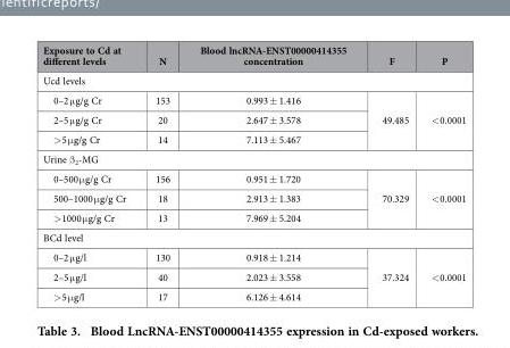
<table><thead><tr><td>Exposure to Cd at different levels</td><td>N</td><td>Blood lncRNA-ENST00000414355 concentration</td><td>F</td><td>P</td></tr></thead><tbody><tr><td colspan="5">Ucd levels</td></tr><tr><td>0–2 μ g/g Cr</td><td>153</td><td>0.993 ± 1.416</td><td rowspan="3">49.485</td><td rowspan="3">&lt; 0.0001</td></tr><tr><td>2–5 μ g/g Cr</td><td>20</td><td>2.647 ± 3.578</td></tr><tr><td>&gt; 5 μ g/g Cr</td><td>14</td><td>7.113 ± 5.467</td></tr><tr><td colspan="5">Urine β <sub>2</sub>-MG</td></tr><tr><td>0–500 μ g/g Cr</td><td>156</td><td>0.951 ± 1.720</td><td rowspan="3">70.329</td><td rowspan="3">&lt; 0.0001</td></tr><tr><td>500–1000 μ g/g Cr</td><td>18</td><td>2.913 ± 1.383</td></tr><tr><td>&gt; 1000 μ g/g Cr</td><td>13</td><td>7.969 ± 5.204</td></tr><tr><td colspan="5">BCd level</td></tr><tr><td>0–2 μ g/l</td><td>130</td><td>0.918 ± 1.214</td><td rowspan="3">37.324</td><td rowspan="3">&lt; 0.0001</td></tr><tr><td>2–5 μ g/l</td><td>40</td><td>2.023 ± 3.558</td></tr><tr><td>&gt; 5 μ g/l</td><td>17</td><td>6.126 ± 4.614</td></tr></tbody></table>